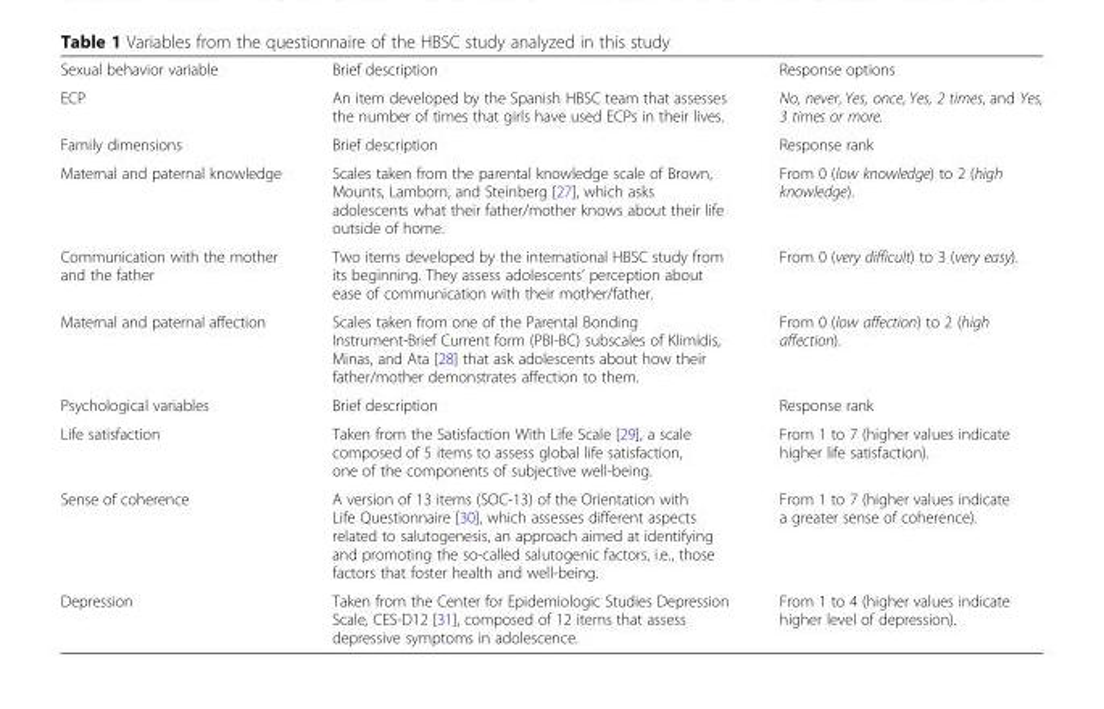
<table><tbody><tr><td>Sexual behavior variable</td><td>Brief description</td><td>Response options</td></tr><tr><td>ECP</td><td>An item developed by the Spanish HBSC team that assesses the number of times that girls have used ECPs in their lives.</td><td>No, never, Yes, once, Yes, 2 times, and Yes, 3 times or more.</td></tr><tr><td>Family dimensions</td><td>Brief description</td><td>Response rank</td></tr><tr><td>Maternal and paternal knowledge</td><td>Scales taken from the parental knowledge scale of Brown, Mounts, Lamborn, and Steinberg [27], which asks adolescents what their father/mother knows about their life outside of home.</td><td>From 0 (low knowledge) to 2 (high knowledge).</td></tr><tr><td>Communication with the mother and the father</td><td>Two items developed by the international HBSC study from its beginning. They assess adolescents’ perception about ease of communication with their mother/father.</td><td>From 0 (very difficult) to 3 (very easy).</td></tr><tr><td>Maternal and paternal affection</td><td>Scales taken from one of the Parental Bonding Instrument-Brief Current form (PBI-BC) subscales of Klimidis, Minas, and Ata [28] that ask adolescents about how their father/mother demonstrates affection to them.</td><td>From 0 (low affection) to 2 (high affection).</td></tr><tr><td>Psychological variables</td><td>Brief description</td><td>Response rank</td></tr><tr><td>Life satisfaction</td><td>Taken from the Satisfaction With Life Scale [29], a scale composed of 5 items to assess global life satisfaction, one of the components of subjective well-being.</td><td>From 1 to 7 (higher values indicate higher life satisfaction).</td></tr><tr><td>Sense of coherence</td><td>A version of 13 items (SOC-13) of the Orientation with Life Questionnaire [30], which assesses different aspects related to salutogenesis, an approach aimed at identifying and promoting the so-called salutogenic factors, i.e., those factors that foster health and well-being.</td><td>From 1 to 7 (higher values indicate a greater sense of coherence).</td></tr><tr><td>Depression</td><td>Taken from the Center for Epidemiologic Studies Depression Scale, CES-D12 [31], composed of 12 items that assess depressive symptoms in adolescence.</td><td>From 1 to 4 (higher values indicate higher level of depression).</td></tr></tbody></table>